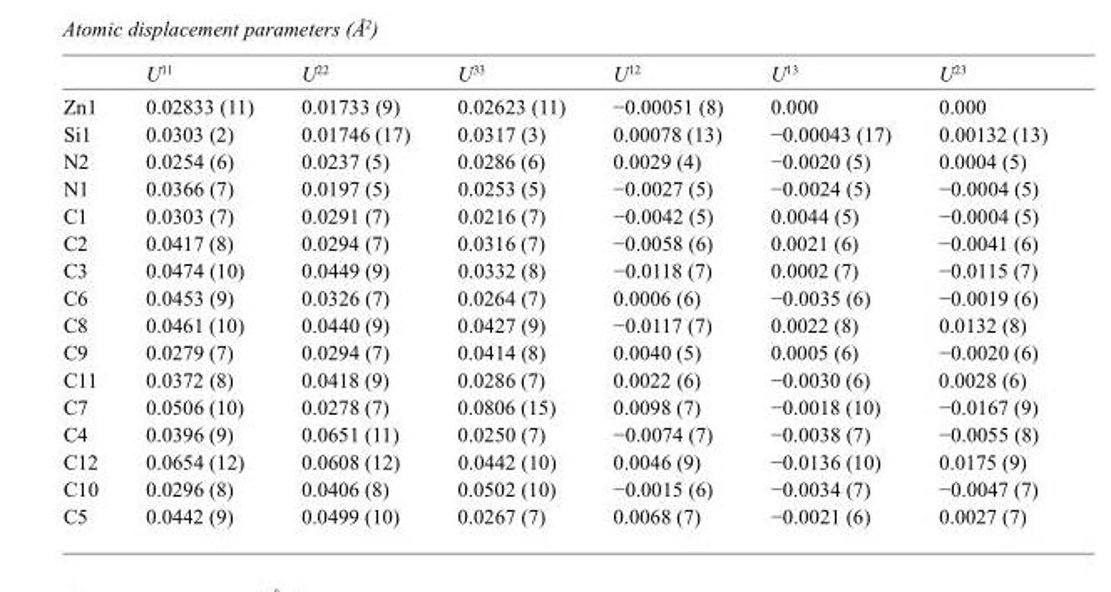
<table><thead><tr><td></td><td>U<sup>11</sup></td><td>U<sup>22</sup></td><td>U<sup>33</sup></td><td>U<sup>12</sup></td><td>U<sup>13</sup></td><td>U<sup>23</sup></td></tr></thead><tbody><tr><td>Zn1</td><td>0.02833 (11)</td><td>0.01733 (9)</td><td>0.02623 (11)</td><td>−0.00051 (8)</td><td>0.000</td><td>0.000</td></tr><tr><td>Si1</td><td>0.0303 (2)</td><td>0.01746 (17)</td><td>0.0317 (3)</td><td>0.00078 (13)</td><td>−0.00043 (17)</td><td>0.00132 (13)</td></tr><tr><td>N2</td><td>0.0254 (6)</td><td>0.0237 (5)</td><td>0.0286 (6)</td><td>0.0029 (4)</td><td>−0.0020 (5)</td><td>0.0004 (5)</td></tr><tr><td>N1</td><td>0.0366 (7)</td><td>0.0197 (5)</td><td>0.0253 (5)</td><td>−0.0027 (5)</td><td>−0.0024 (5)</td><td>−0.0004 (5)</td></tr><tr><td>C1</td><td>0.0303 (7)</td><td>0.0291 (7)</td><td>0.0216 (7)</td><td>−0.0042 (5)</td><td>0.0044 (5)</td><td>−0.0004 (5)</td></tr><tr><td>C2</td><td>0.0417 (8)</td><td>0.0294 (7)</td><td>0.0316 (7)</td><td>−0.0058 (6)</td><td>0.0021 (6)</td><td>−0.0041 (6)</td></tr><tr><td>C3</td><td>0.0474 (10)</td><td>0.0449 (9)</td><td>0.0332 (8)</td><td>−0.0118 (7)</td><td>0.0002 (7)</td><td>−0.0115 (7)</td></tr><tr><td>C6</td><td>0.0453 (9)</td><td>0.0326 (7)</td><td>0.0264 (7)</td><td>0.0006 (6)</td><td>−0.0035 (6)</td><td>−0.0019 (6)</td></tr><tr><td>C8</td><td>0.0461 (10)</td><td>0.0440 (9)</td><td>0.0427 (9)</td><td>−0.0117 (7)</td><td>0.0022 (8)</td><td>0.0132 (8)</td></tr><tr><td>C9</td><td>0.0279 (7)</td><td>0.0294 (7)</td><td>0.0414 (8)</td><td>0.0040 (5)</td><td>0.0005 (6)</td><td>−0.0020 (6)</td></tr><tr><td>C11</td><td>0.0372 (8)</td><td>0.0418 (9)</td><td>0.0286 (7)</td><td>0.0022 (6)</td><td>−0.0030 (6)</td><td>0.0028 (6)</td></tr><tr><td>C7</td><td>0.0506 (10)</td><td>0.0278 (7)</td><td>0.0806 (15)</td><td>0.0098 (7)</td><td>−0.0018 (10)</td><td>−0.0167 (9)</td></tr><tr><td>C4</td><td>0.0396 (9)</td><td>0.0651 (11)</td><td>0.0250 (7)</td><td>−0.0074 (7)</td><td>−0.0038 (7)</td><td>−0.0055 (8)</td></tr><tr><td>C12</td><td>0.0654 (12)</td><td>0.0608 (12)</td><td>0.0442 (10)</td><td>0.0046 (9)</td><td>−0.0136 (10)</td><td>0.0175 (9)</td></tr><tr><td>C10</td><td>0.0296 (8)</td><td>0.0406 (8)</td><td>0.0502 (10)</td><td>−0.0015 (6)</td><td>−0.0034 (7)</td><td>−0.0047 (7)</td></tr><tr><td>C5</td><td>0.0442 (9)</td><td>0.0499 (10)</td><td>0.0267 (7)</td><td>0.0068 (7)</td><td>−0.0021 (6)</td><td>0.0027 (7)</td></tr></tbody></table>